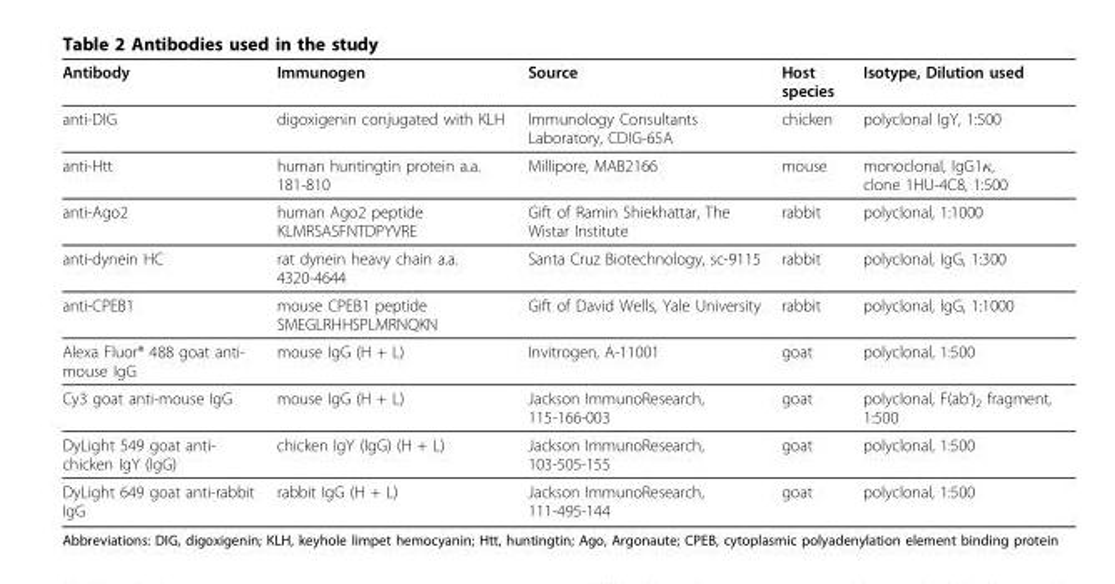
<table><thead><tr><td>Antibody</td><td>Immunogen</td><td>Source</td><td>Host species</td><td>Isotype, Dilution used</td></tr></thead><tbody><tr><td>anti-DIG</td><td>digoxigenin conjugated with KLH</td><td>Immunology Consultants Laboratory, CDIG-65A</td><td>chicken</td><td>polyclonal IgY, 1:500</td></tr><tr><td>anti-Htt</td><td>human huntingtin protein a.a. 181-810</td><td>Millipore, MAB2166</td><td>mouse</td><td>monoclonal, IgG1κ, clone 1HU-4C8, 1:500</td></tr><tr><td>anti-Ago2</td><td>human Ago2 peptide KLMRSASFNTDPYVRE</td><td>Gift of Ramin Shiekhattar, The Wistar Institute</td><td>rabbit</td><td>polyclonal, 1:1000</td></tr><tr><td>anti-dynein HC</td><td>rat dynein heavy chain a.a. 4320-4644</td><td>Santa Cruz Biotechnology, sc-9115</td><td>rabbit</td><td>polyclonal, IgG, 1:300</td></tr><tr><td>anti-CPEB1</td><td>mouse CPEB1 peptide SMEGLRHHSPLMRNQKN</td><td>Gift of David Wells, Yale University</td><td>rabbit</td><td>polyclonal, IgG, 1:1000</td></tr><tr><td>Alexa Fluor<sup>®</sup> 488 goat anti- mouse IgG</td><td>mouse IgG (H + L)</td><td>Invitrogen, A-11001</td><td>goat</td><td>polyclonal, 1:500</td></tr><tr><td>Cy3 goat anti-mouse IgG</td><td>mouse IgG (H + L)</td><td>Jackson ImmunoResearch, 115-166-003</td><td>goat</td><td>polyclonal, F(ab’)<sub>2</sub> fragment, 1:500</td></tr><tr><td>DyLight 549 goat anti- chicken IgY (IgG)</td><td>chicken IgY (IgG) (H + L)</td><td>Jackson ImmunoResearch, 103-505-155</td><td>goat</td><td>polyclonal, 1:500</td></tr><tr><td>DyLight 649 goat anti-rabbit IgG</td><td>rabbit IgG (H + L)</td><td>Jackson ImmunoResearch, 111-495-144</td><td>goat</td><td>polyclonal, 1:500</td></tr></tbody></table>